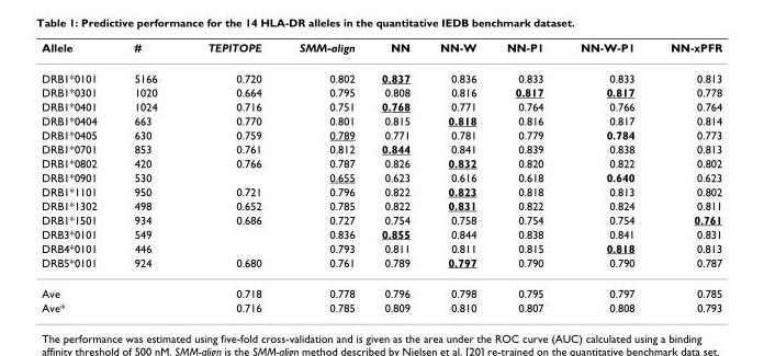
<table><thead><tr><td>Allele</td><td>#</td><td>TEPITOPE</td><td>SMM-align</td><td>NN</td><td>NN-W</td><td>NN-P1</td><td>NN-W-P1</td><td>NN-xPFR</td></tr></thead><tbody><tr><td>DRB1*0101</td><td>5166</td><td>0.720</td><td>0.802</td><td>0.837</td><td>0.836</td><td>0.833</td><td>0.833</td><td>0.813</td></tr><tr><td>DRB1*0301</td><td>1020</td><td>0.664</td><td>0.795</td><td>0.808</td><td>0.816</td><td>0.817</td><td>0.817</td><td>0.778</td></tr><tr><td>DRB1*0401</td><td>1024</td><td>0.716</td><td>0.751</td><td>0.768</td><td>0.771</td><td>0.764</td><td>0.766</td><td>0.764</td></tr><tr><td>DRB1*0404</td><td>663</td><td>0.770</td><td>0.801</td><td>0.815</td><td>0.818</td><td>0.816</td><td>0.817</td><td>0.814</td></tr><tr><td>DRB1*0405</td><td>630</td><td>0.759</td><td>0.789</td><td>0.771</td><td>0.781</td><td>0.779</td><td>0.784</td><td>0.773</td></tr><tr><td>DRB1*0701</td><td>853</td><td>0.761</td><td>0.812</td><td>0.844</td><td>0.841</td><td>0.839</td><td>0.838</td><td>0.813</td></tr><tr><td>DRB1*0802</td><td>420</td><td>0.766</td><td>0.787</td><td>0.826</td><td>0.832</td><td>0.820</td><td>0.822</td><td>0.802</td></tr><tr><td>DRB1*0901</td><td>530</td><td></td><td>0.655</td><td>0.623</td><td>0.616</td><td>0.618</td><td>0.640</td><td>0.623</td></tr><tr><td>DRB1*1101</td><td>950</td><td>0.721</td><td>0.796</td><td>0.822</td><td>0.823</td><td>0.818</td><td>0.813</td><td>0.802</td></tr><tr><td>DRB1*1302</td><td>498</td><td>0.652</td><td>0.785</td><td>0.822</td><td>0.831</td><td>0.822</td><td>0.824</td><td>0.811</td></tr><tr><td>DRB1*1501</td><td>934</td><td>0.686</td><td>0.727</td><td>0.754</td><td>0.758</td><td>0.754</td><td>0.754</td><td>0.761</td></tr><tr><td>DRB3*0101</td><td>549</td><td></td><td>0.836</td><td>0.855</td><td>0.844</td><td>0.838</td><td>0.841</td><td>0.831</td></tr><tr><td>DRB4*0101</td><td>446</td><td></td><td>0.793</td><td>0.811</td><td>0.811</td><td>0.815</td><td>0.818</td><td>0.813</td></tr><tr><td>DRB5*0101</td><td>924</td><td>0.680</td><td>0.761</td><td>0.789</td><td>0.797</td><td>0.790</td><td>0.790</td><td>0.787</td></tr><tr><td>Ave</td><td></td><td>0.718</td><td>0.778</td><td>0.796</td><td>0.798</td><td>0.795</td><td>0.797</td><td>0.785</td></tr><tr><td>Ave*</td><td></td><td>0.716</td><td>0.785</td><td>0.809</td><td>0.810</td><td>0.807</td><td>0.808</td><td>0.793</td></tr></tbody></table>